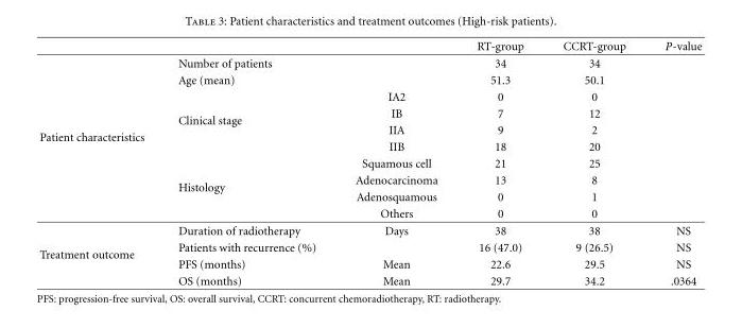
<table><thead><tr><td></td><td></td><td></td><td>RT-group</td><td>CCRT-group</td><td>P-value</td></tr></thead><tbody><tr><td rowspan="10">Patient characteristics</td><td>Number of patients</td><td></td><td>34</td><td>34</td><td></td></tr><tr><td>Age (mean)</td><td></td><td>51.3</td><td>50.1</td><td></td></tr><tr><td rowspan="4">Clinical stage</td><td>IA2</td><td>0</td><td>0</td><td></td></tr><tr><td>IB</td><td>7</td><td>12</td><td></td></tr><tr><td>IIA</td><td>9</td><td>2</td><td></td></tr><tr><td>IIB</td><td>18</td><td>20</td><td></td></tr><tr><td rowspan="4">Histology</td><td>Squamous cell</td><td>21</td><td>25</td><td></td></tr><tr><td>Adenocarcinoma</td><td>13</td><td>8</td><td></td></tr><tr><td>Adenosquamous</td><td>0</td><td>1</td><td></td></tr><tr><td>Others</td><td>0</td><td>0</td><td></td></tr><tr><td rowspan="4">Treatment outcome</td><td>Duration of radiotherapy</td><td>Days</td><td>38</td><td>38</td><td>NS</td></tr><tr><td>Patients with recurrence (%)</td><td></td><td>16 (47.0)</td><td>9 (26.5)</td><td>NS</td></tr><tr><td>PFS (months)</td><td>Mean</td><td>22.6</td><td>29.5</td><td>NS</td></tr><tr><td>OS (months)</td><td>Mean</td><td>29.7</td><td>34.2</td><td>.0364</td></tr></tbody></table>